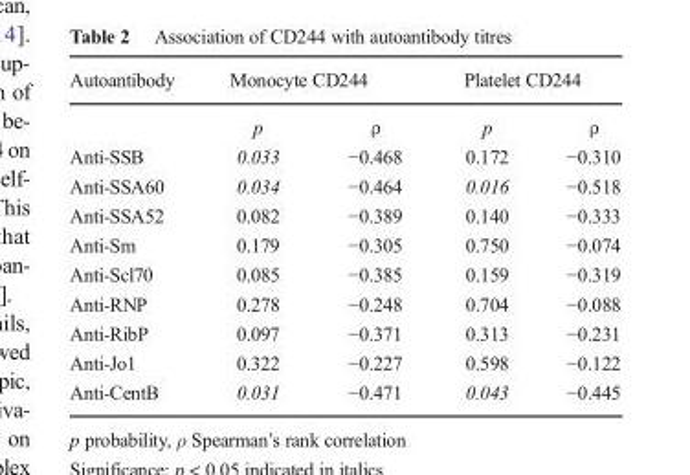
<table><thead><tr><td rowspan="2">Autoantibody</td><td colspan="2">Monocyte CD244</td><td colspan="2">Platelet CD244</td></tr><tr><td>p</td><td>ρ</td><td>p</td><td>ρ</td></tr></thead><tbody><tr><td>Anti-SSB</td><td>0.033</td><td>−0.468</td><td>0.172</td><td>−0.310</td></tr><tr><td>Anti-SSA60</td><td>0.034</td><td>−0.464</td><td>0.016</td><td>−0.518</td></tr><tr><td>Anti-SSA52</td><td>0.082</td><td>−0.389</td><td>0.140</td><td>−0.333</td></tr><tr><td>Anti-Sm</td><td>0.179</td><td>−0.305</td><td>0.750</td><td>−0.074</td></tr><tr><td>Anti-Scl70</td><td>0.085</td><td>−0.385</td><td>0.159</td><td>−0.319</td></tr><tr><td>Anti-RNP</td><td>0.278</td><td>−0.248</td><td>0.704</td><td>−0.088</td></tr><tr><td>Anti-RibP</td><td>0.097</td><td>−0.371</td><td>0.313</td><td>−0.231</td></tr><tr><td>Anti-Jo1</td><td>0.322</td><td>−0.227</td><td>0.598</td><td>−0.122</td></tr><tr><td>Anti-CentB</td><td>0.031</td><td>−0.471</td><td>0.043</td><td>−0.445</td></tr></tbody></table>